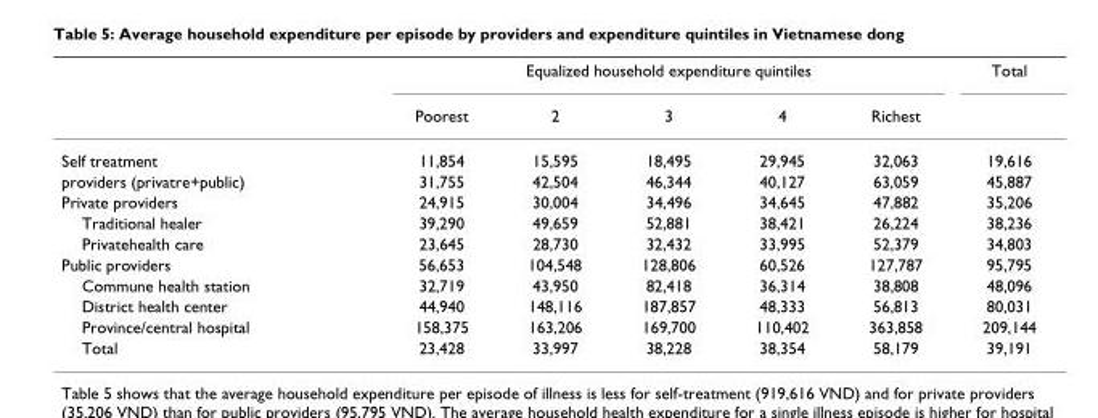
<table><thead><tr><td rowspan="2"></td><td colspan="5">Equalized household expenditure quintiles</td><td rowspan="2">Total</td></tr><tr><td>Poorest</td><td>2</td><td>3</td><td>4</td><td>Richest</td></tr></thead><tbody><tr><td>Self treatment</td><td>11,854</td><td>15,595</td><td>18,495</td><td>29,945</td><td>32,063</td><td>19,616</td></tr><tr><td>providers (privatre+public)</td><td>31,755</td><td>42,504</td><td>46,344</td><td>40,127</td><td>63,059</td><td>45,887</td></tr><tr><td>Private providers</td><td>24,915</td><td>30,004</td><td>34,496</td><td>34,645</td><td>47,882</td><td>35,206</td></tr><tr><td>Traditional healer</td><td>39,290</td><td>49,659</td><td>52,881</td><td>38,421</td><td>26,224</td><td>38,236</td></tr><tr><td>Privatehealth care</td><td>23,645</td><td>28,730</td><td>32,432</td><td>33,995</td><td>52,379</td><td>34,803</td></tr><tr><td>Public providers</td><td>56,653</td><td>104,548</td><td>128,806</td><td>60,526</td><td>127,787</td><td>95,795</td></tr><tr><td>Commune health station</td><td>32,719</td><td>43,950</td><td>82,418</td><td>36,314</td><td>38,808</td><td>48,096</td></tr><tr><td>District health center</td><td>44,940</td><td>148,116</td><td>187,857</td><td>48,333</td><td>56,813</td><td>80,031</td></tr><tr><td>Province/central hospital</td><td>158,375</td><td>163,206</td><td>169,700</td><td>110,402</td><td>363,858</td><td>209,144</td></tr><tr><td>Total</td><td>23,428</td><td>33,997</td><td>38,228</td><td>38,354</td><td>58,179</td><td>39,191</td></tr></tbody></table>